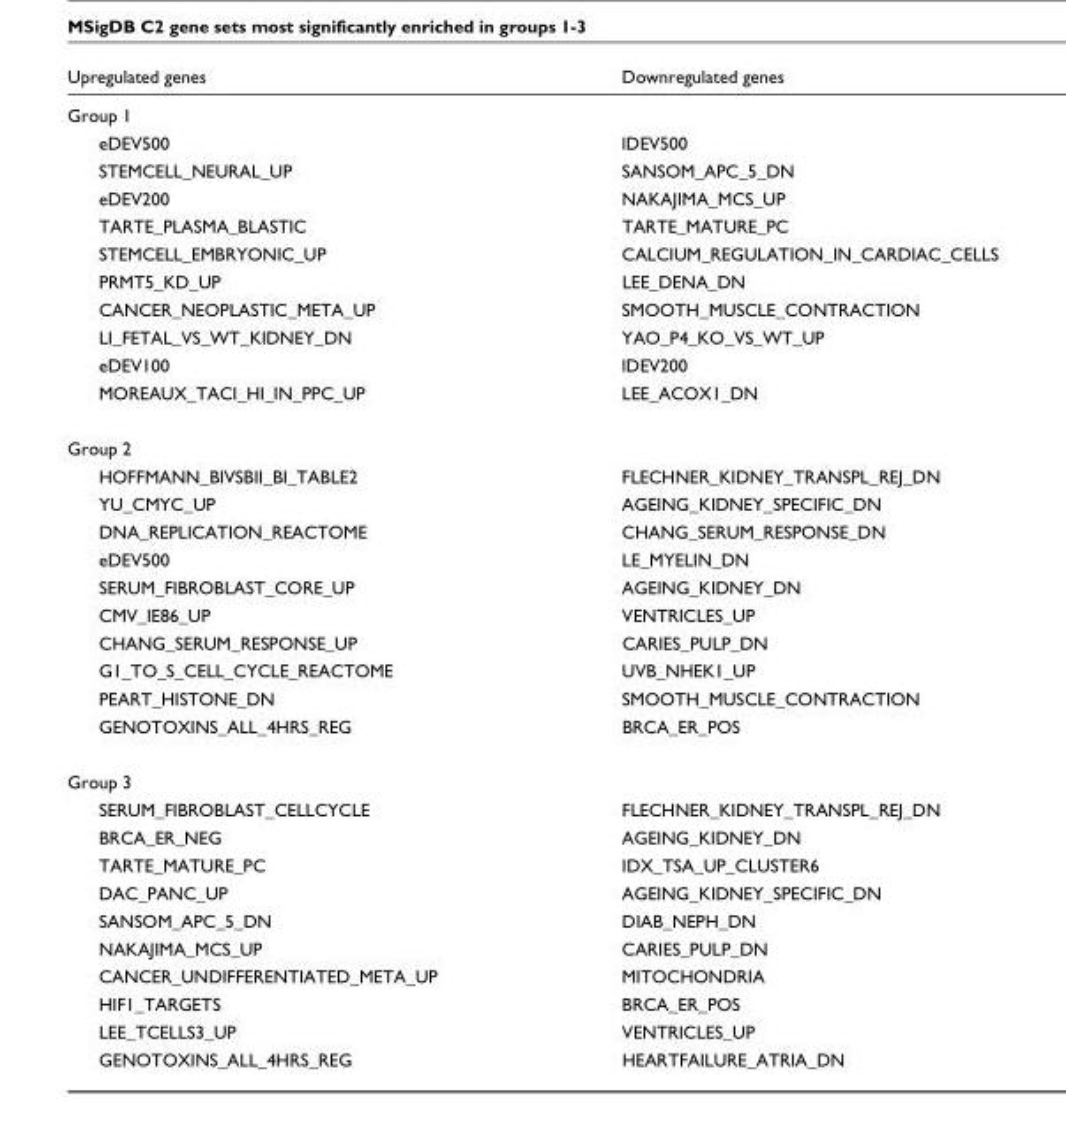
<table><thead><tr><td>Upregulated genes</td><td>Downregulated genes</td></tr></thead><tbody><tr><td colspan="2">Group 1</td></tr><tr><td>eDEV500</td><td>lDEV500</td></tr><tr><td>STEMCELL_NEURAL_UP</td><td>SANSOM_APC_5_DN</td></tr><tr><td>eDEV200</td><td>NAKAJIMA_MCS_UP</td></tr><tr><td>TARTE_PLASMA_BLASTIC</td><td>TARTE_MATURE_PC</td></tr><tr><td>STEMCELL_EMBRYONIC_UP</td><td>CALCIUM_REGULATION_IN_CARDIAC_CELLS</td></tr><tr><td>PRMT5_KD_UP</td><td>LEE_DENA_DN</td></tr><tr><td>CANCER_NEOPLASTIC_META_UP</td><td>SMOOTH_MUSCLE_CONTRACTION</td></tr><tr><td>LI_FETAL_VS_WT_KIDNEY_DN</td><td>YAO_P4_KO_VS_WT_UP</td></tr><tr><td>eDEV100</td><td>lDEV200</td></tr><tr><td>MOREAUX_TACI_HI_IN_PPC_UP</td><td>LEE_ACOX1_DN</td></tr><tr><td colspan="2">Group 2</td></tr><tr><td>HOFFMANN_BIVSBII_BI_TABLE2</td><td>FLECHNER_KIDNEY_TRANSPL_REJ_DN</td></tr><tr><td>YU_CMYC_UP</td><td>AGEING_KIDNEY_SPECIFIC_DN</td></tr><tr><td>DNA_REPLICATION_REACTOME</td><td>CHANG_SERUM_RESPONSE_DN</td></tr><tr><td>eDEV500</td><td>LE_MYELIN_DN</td></tr><tr><td>SERUM_FIBROBLAST_CORE_UP</td><td>AGEING_KIDNEY_DN</td></tr><tr><td>CMV_IE86_UP</td><td>VENTRICLES_UP</td></tr><tr><td>CHANG_SERUM_RESPONSE_UP</td><td>CARIES_PULP_DN</td></tr><tr><td>G1_TO_S_CELL_CYCLE_REACTOME</td><td>UVB_NHEK1_UP</td></tr><tr><td>PEART_HISTONE_DN</td><td>SMOOTH_MUSCLE_CONTRACTION</td></tr><tr><td>GENOTOXINS_ALL_4HRS_REG</td><td>BRCA_ER_POS</td></tr><tr><td colspan="2">Group 3</td></tr><tr><td>SERUM_FIBROBLAST_CELLCYCLE</td><td>FLECHNER_KIDNEY_TRANSPL_REJ_DN</td></tr><tr><td>BRCA_ER_NEG</td><td>AGEING_KIDNEY_DN</td></tr><tr><td>TARTE_MATURE_PC</td><td>IDX_TSA_UP_CLUSTER6</td></tr><tr><td>DAC_PANC_UP</td><td>AGEING_KIDNEY_SPECIFIC_DN</td></tr><tr><td>SANSOM_APC_5_DN</td><td>DIAB_NEPH_DN</td></tr><tr><td>NAKAJIMA_MCS_UP</td><td>CARIES_PULP_DN</td></tr><tr><td>CANCER_UNDIFFERENTIATED_META_UP</td><td>MITOCHONDRIA</td></tr><tr><td>HIF1_TARGETS</td><td>BRCA_ER_POS</td></tr><tr><td>LEE_TCELLS3_UP</td><td>VENTRICLES_UP</td></tr><tr><td>GENOTOXINS_ALL_4HRS_REG</td><td>HEARTFAILURE_ATRIA_DN</td></tr></tbody></table>